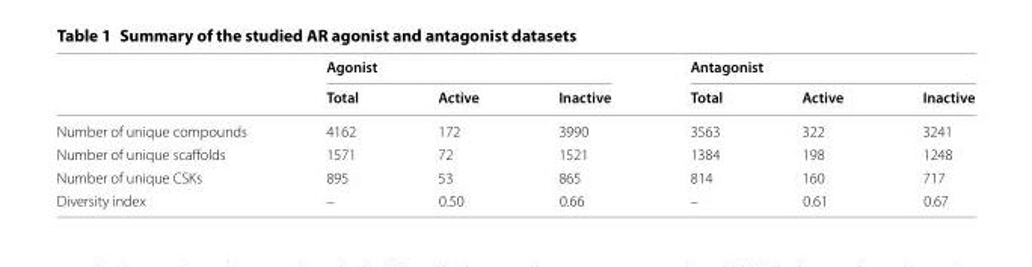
<table><thead><tr><td rowspan="2"></td><td colspan="3">Agonist</td><td colspan="3">Antagonist</td></tr><tr><td>Total</td><td>Active</td><td>Inactive</td><td>Total</td><td>Active</td><td>Inactive</td></tr></thead><tbody><tr><td>Number of unique compounds</td><td>4162</td><td>172</td><td>3990</td><td>3563</td><td>322</td><td>3241</td></tr><tr><td>Number of unique scaffolds</td><td>1571</td><td>72</td><td>1521</td><td>1384</td><td>198</td><td>1248</td></tr><tr><td>Number of unique CSKs</td><td>895</td><td>53</td><td>865</td><td>814</td><td>160</td><td>717</td></tr><tr><td>Diversity index</td><td>–</td><td>0.50</td><td>0.66</td><td>–</td><td>0.61</td><td>0.67</td></tr></tbody></table>